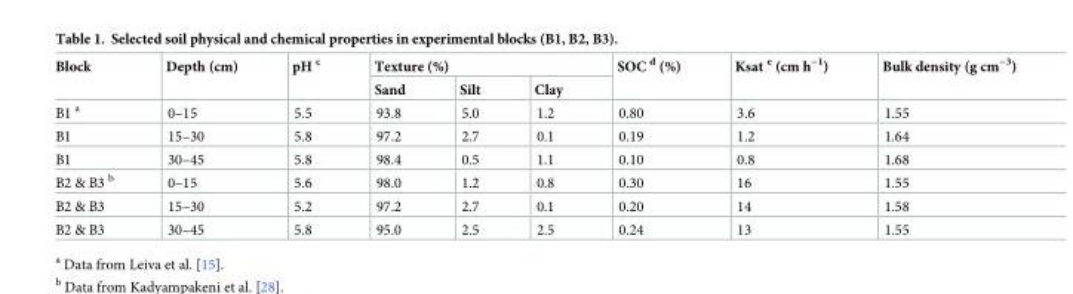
<table><thead><tr><td rowspan="2">Block</td><td rowspan="2">Depth (cm)</td><td rowspan="2">pH <sup>c</sup></td><td colspan="3">Texture (%)</td><td rowspan="2">SOC <sup>d</sup> (%)</td><td rowspan="2">Ksat <sup>e</sup> (cm h<sup>−1</sup>)</td><td rowspan="2">Bulk density (g cm<sup>−3</sup>)</td></tr><tr><td>Sand</td><td>Silt</td><td>Clay</td></tr></thead><tbody><tr><td>B1 <sup>a</sup></td><td>0–15</td><td>5.5</td><td>93.8</td><td>5.0</td><td>1.2</td><td>0.80</td><td>3.6</td><td>1.55</td></tr><tr><td>B1</td><td>15–30</td><td>5.8</td><td>97.2</td><td>2.7</td><td>0.1</td><td>0.19</td><td>1.2</td><td>1.64</td></tr><tr><td>B1</td><td>30–45</td><td>5.8</td><td>98.4</td><td>0.5</td><td>1.1</td><td>0.10</td><td>0.8</td><td>1.68</td></tr><tr><td>B2 &amp; B3 <sup>b</sup></td><td>0–15</td><td>5.6</td><td>98.0</td><td>1.2</td><td>0.8</td><td>0.30</td><td>16</td><td>1.55</td></tr><tr><td>B2 &amp; B3</td><td>15–30</td><td>5.2</td><td>97.2</td><td>2.7</td><td>0.1</td><td>0.20</td><td>14</td><td>1.58</td></tr><tr><td>B2 &amp; B3</td><td>30–45</td><td>5.8</td><td>95.0</td><td>2.5</td><td>2.5</td><td>0.24</td><td>13</td><td>1.55</td></tr></tbody></table>